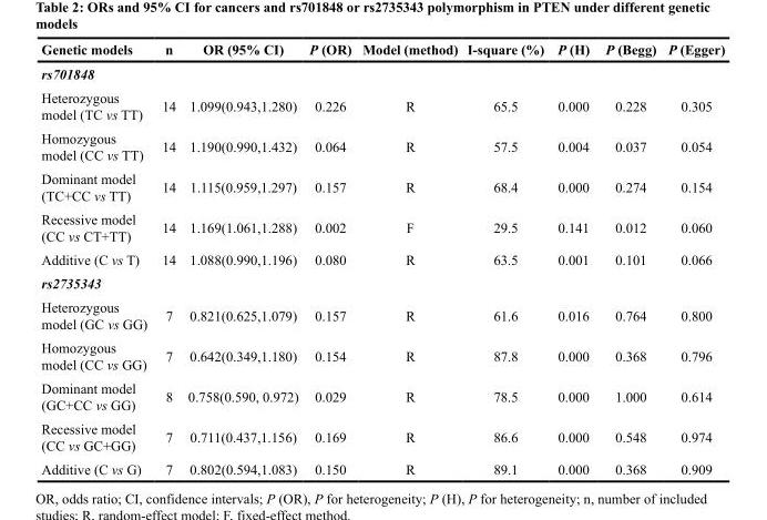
<table><thead><tr><td>Genetic models</td><td>n</td><td>OR (95% CI)</td><td>P (OR)</td><td>Model (method)</td><td>I-square (%)</td><td>P (H)</td><td>P (Begg)</td><td>P (Egger)</td></tr></thead><tbody><tr><td colspan="9">rs701848</td></tr><tr><td>Heterozygous model (TC vs TT)</td><td>14</td><td>1.099(0.943,1.280)</td><td>0.226</td><td>R</td><td>65.5</td><td>0.000</td><td>0.228</td><td>0.305</td></tr><tr><td>Homozygous model (CC vs TT)</td><td>14</td><td>1.190(0.990,1.432)</td><td>0.064</td><td>R</td><td>57.5</td><td>0.004</td><td>0.037</td><td>0.054</td></tr><tr><td>Dominant model (TC+CC vs TT)</td><td>14</td><td>1.115(0.959,1.297)</td><td>0.157</td><td>R</td><td>68.4</td><td>0.000</td><td>0.274</td><td>0.154</td></tr><tr><td>Recessive model (CC vs CT+TT)</td><td>14</td><td>1.169(1.061,1.288)</td><td>0.002</td><td>F</td><td>29.5</td><td>0.141</td><td>0.012</td><td>0.060</td></tr><tr><td>Additive (C vs T)</td><td>14</td><td>1.088(0.990,1.196)</td><td>0.080</td><td>R</td><td>63.5</td><td>0.001</td><td>0.101</td><td>0.066</td></tr><tr><td colspan="9">rs2735343</td></tr><tr><td>Heterozygous model (GC vs GG)</td><td>7</td><td>0.821(0.625,1.079)</td><td>0.157</td><td>R</td><td>61.6</td><td>0.016</td><td>0.764</td><td>0.800</td></tr><tr><td>Homozygous model (CC vs GG)</td><td>7</td><td>0.642(0.349,1.180)</td><td>0.154</td><td>R</td><td>87.8</td><td>0.000</td><td>0.368</td><td>0.796</td></tr><tr><td>Dominant model (GC+CC vs GG)</td><td>8</td><td>0.758(0.590, 0.972)</td><td>0.029</td><td>R</td><td>78.5</td><td>0.000</td><td>1.000</td><td>0.614</td></tr><tr><td>Recessive model (CC vs GC+GG)</td><td>7</td><td>0.711(0.437,1.156)</td><td>0.169</td><td>R</td><td>86.6</td><td>0.000</td><td>0.548</td><td>0.974</td></tr><tr><td>Additive (C vs G)</td><td>7</td><td>0.802(0.594,1.083)</td><td>0.150</td><td>R</td><td>89.1</td><td>0.000</td><td>0.368</td><td>0.909</td></tr></tbody></table>